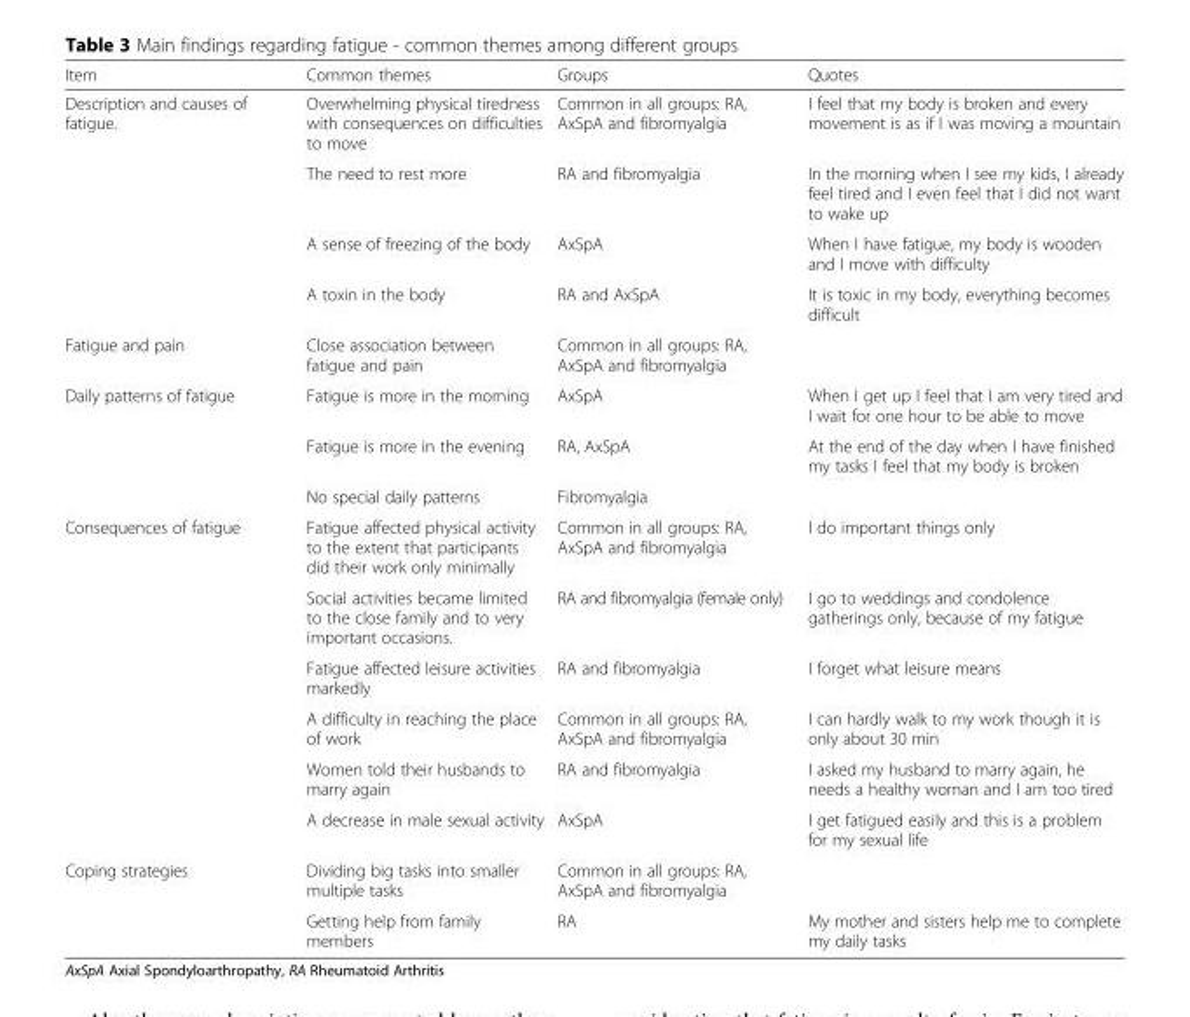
<table><thead><tr><td>Item</td><td>Common themes</td><td>Groups</td><td>Quotes</td></tr></thead><tbody><tr><td rowspan="4">Description and causes of fatigue.</td><td>Overwhelming physical tiredness with consequences on difficulties to move</td><td>Common in all groups: RA, AxSpA and fibromyalgia</td><td>I feel that my body is broken and every movement is as if I was moving a mountain</td></tr><tr><td>The need to rest more</td><td>RA and fibromyalgia</td><td>In the morning when I see my kids, I already feel tired and I even feel that I did not want to wake up</td></tr><tr><td>A sense of freezing of the body</td><td>AxSpA</td><td>When I have fatigue, my body is wooden and I move with difficulty</td></tr><tr><td>A toxin in the body</td><td>RA and AxSpA</td><td>It is toxic in my body, everything becomes difficult</td></tr><tr><td>Fatigue and pain</td><td>Close association between fatigue and pain</td><td>Common in all groups: RA, AxSpA and fibromyalgia</td><td></td></tr><tr><td rowspan="3">Daily patterns of fatigue</td><td>Fatigue is more in the morning</td><td>AxSpA</td><td>When I get up I feel that I am very tired and I wait for one hour to be able to move</td></tr><tr><td>Fatigue is more in the evening</td><td>RA, AxSpA</td><td>At the end of the day when I have finished my tasks I feel that my body is broken</td></tr><tr><td>No special daily patterns</td><td>Fibromyalgia</td><td></td></tr><tr><td rowspan="6">Consequences of fatigue</td><td>Fatigue affected physical activity to the extent that participants did their work only minimally</td><td>Common in all groups: RA, AxSpA and fibromyalgia</td><td>I do important things only</td></tr><tr><td>Social activities became limited to the close family and to very important occasions.</td><td>RA and fibromyalgia (female only)</td><td>I go to weddings and condolence gatherings only, because of my fatigue</td></tr><tr><td>Fatigue affected leisure activities markedly</td><td>RA and fibromyalgia</td><td>I forget what leisure means</td></tr><tr><td>A difficulty in reaching the place of work</td><td>Common in all groups: RA, AxSpA and fibromyalgia</td><td>I can hardly walk to my work though it is only about 30 min</td></tr><tr><td>Women told their husbands to marry again</td><td>RA and fibromyalgia</td><td>I asked my husband to marry again, he needs a healthy woman and I am too tired</td></tr><tr><td>A decrease in male sexual activity</td><td>AxSpA</td><td>I get fatigued easily and this is a problem for my sexual life</td></tr><tr><td rowspan="2">Coping strategies</td><td>Dividing big tasks into smaller multiple tasks</td><td>Common in all groups: RA, AxSpA and fibromyalgia</td><td></td></tr><tr><td>Getting help from family members</td><td>RA</td><td>My mother and sisters help me to complete my daily tasks</td></tr></tbody></table>